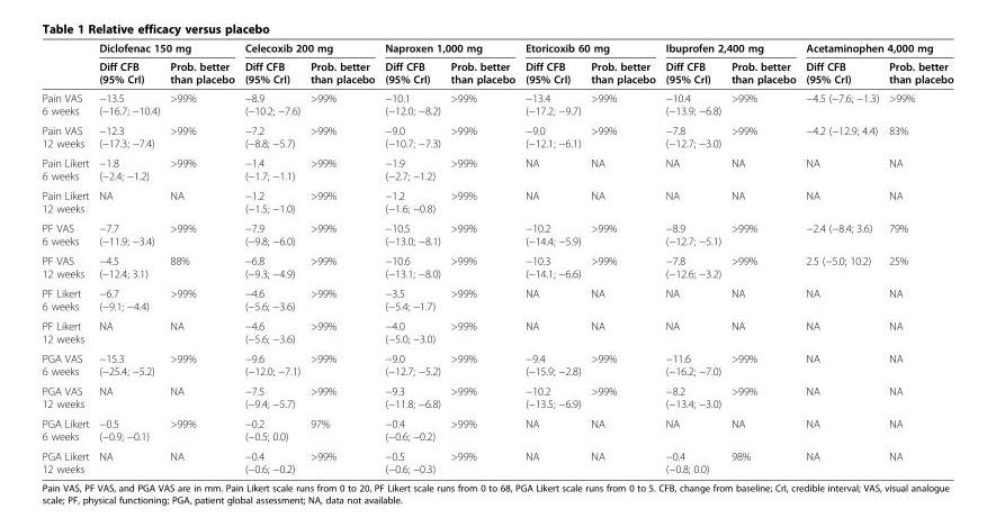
<table><thead><tr><td rowspan="2"></td><td colspan="2">Diclofenac 150 mg</td><td colspan="2">Celecoxib 200 mg</td><td colspan="2">Naproxen 1,000 mg</td><td colspan="2">Etoricoxib 60 mg</td><td colspan="2">Ibuprofen 2,400 mg</td><td colspan="2">Acetaminophen 4,000 mg</td></tr><tr><td>Diff CFB (95% CrI)</td><td>Prob. better than placebo</td><td>Diff CFB (95% CrI)</td><td>Prob. better than placebo</td><td>Diff CFB (95% CrI)</td><td>Prob. better than placebo</td><td>Diff CFB (95% CrI)</td><td>Prob. better than placebo</td><td>Diff CFB (95% CrI)</td><td>Prob. better than placebo</td><td>Diff CFB (95% CrI)</td><td>Prob. better than placebo</td></tr></thead><tbody><tr><td>Pain VAS 6 weeks</td><td>−13.5 (−16.7; −10.4)</td><td>&gt;99%</td><td>−8.9 (−10.2; −7.6)</td><td>&gt;99%</td><td>−10.1 (−12.0; −8.2)</td><td>&gt;99%</td><td>−13.4 (−17.2; −9.7)</td><td>&gt;99%</td><td>−10.4 (−13.9; −6.8)</td><td>&gt;99%</td><td>−4.5 (−7.6; −1.3)</td><td>&gt;99%</td></tr><tr><td>Pain VAS 12 weeks</td><td>−12.3 (−17.3; −7.4)</td><td>&gt;99%</td><td>−7.2 (−8.8; −5.7)</td><td>&gt;99%</td><td>−9.0 (−10.7; −7.3)</td><td>&gt;99%</td><td>−9.0 (−12.1; −6.1)</td><td>&gt;99%</td><td>−7.8 (−12.7; −3.0)</td><td>&gt;99%</td><td>−4.2 (−12.9; 4.4)</td><td>83%</td></tr><tr><td>Pain Likert 6 weeks</td><td>−1.8 (−2.4; −1.2)</td><td>&gt;99%</td><td>−1.4 (−1.7; −1.1)</td><td>&gt;99%</td><td>−1.9 (−2.7; −1.2)</td><td>&gt;99%</td><td>NA</td><td>NA</td><td>NA</td><td>NA</td><td>NA</td><td>NA</td></tr><tr><td>Pain Likert 12 weeks</td><td>NA</td><td>NA</td><td>−1.2 (−1.5; −1.0)</td><td>&gt;99%</td><td>−1.2 (−1.6; −0.8)</td><td>&gt;99%</td><td>NA</td><td>NA</td><td>NA</td><td>NA</td><td>NA</td><td>NA</td></tr><tr><td>PF VAS 6 weeks</td><td>−7.7 (−11.9; −3.4)</td><td>&gt;99%</td><td>−7.9 (−9.8; −6.0)</td><td>&gt;99%</td><td>−10.5 (−13.0; −8.1)</td><td>&gt;99%</td><td>−10.2 (−14.4; −5.9)</td><td>&gt;99%</td><td>−8.9 (−12.7; −5.1)</td><td>&gt;99%</td><td>−2.4 (−8.4; 3.6)</td><td>79%</td></tr><tr><td>PF VAS 12 weeks</td><td>−4.5 (−12.4; 3.1)</td><td>88%</td><td>−6.8 (−9.3; −4.9)</td><td>&gt;99%</td><td>−10.6 (−13.1; −8.0)</td><td>&gt;99%</td><td>−10.3 (−14.1; −6.6)</td><td>&gt;99%</td><td>−7.8 (−12.6; −3.2)</td><td>&gt;99%</td><td>2.5 (−5.0; 10.2)</td><td>25%</td></tr><tr><td>PF Likert 6 weeks</td><td>−6.7 (−9.1; −4.4)</td><td>&gt;99%</td><td>−4.6 (−5.6; −3.6)</td><td>&gt;99%</td><td>−3.5 (−5.4; −1.7)</td><td>&gt;99%</td><td>NA</td><td>NA</td><td>NA</td><td>NA</td><td>NA</td><td>NA</td></tr><tr><td>PF Likert 12 weeks</td><td>NA</td><td>NA</td><td>−4.6 (−5.6; −3.6)</td><td>&gt;99%</td><td>−4.0 (−5.0; −3.0)</td><td>&gt;99%</td><td>NA</td><td>NA</td><td>NA</td><td>NA</td><td>NA</td><td>NA</td></tr><tr><td>PGA VAS 6 weeks</td><td>−15.3 (−25.4; −5.2)</td><td>&gt;99%</td><td>−9.6 (−12.0; −7.1)</td><td>&gt;99%</td><td>−9.0 (−12.7; −5.2)</td><td>&gt;99%</td><td>−9.4 (−15.9; −2.8)</td><td>&gt;99%</td><td>−11.6 (−16.2; −7.0)</td><td>&gt;99%</td><td>NA</td><td>NA</td></tr><tr><td>PGA VAS 12 weeks</td><td>NA</td><td>NA</td><td>−7.5 (−9.4; −5.7)</td><td>&gt;99%</td><td>−9.3 (−11.8; −6.8)</td><td>&gt;99%</td><td>−10.2 (−13.5; −6.9)</td><td>&gt;99%</td><td>−8.2 (−13.4; −3.0)</td><td>&gt;99%</td><td>NA</td><td>NA</td></tr><tr><td>PGA Likert 6 weeks</td><td>−0.5 (−0.9; −0.1)</td><td>&gt;99%</td><td>−0.2 (−0.5; 0.0)</td><td>97%</td><td>−0.4 (−0.6; −0.2)</td><td>&gt;99%</td><td>NA</td><td>NA</td><td>NA</td><td>NA</td><td>NA</td><td>NA</td></tr><tr><td>PGA Likert 12 weeks</td><td>NA</td><td>NA</td><td>−0.4 (−0.6; −0.2)</td><td>&gt;99%</td><td>−0.5 (−0.6; −0.3)</td><td>&gt;99%</td><td>NA</td><td>NA</td><td>−0.4 (−0.8; 0.0)</td><td>98%</td><td>NA</td><td>NA</td></tr></tbody></table>